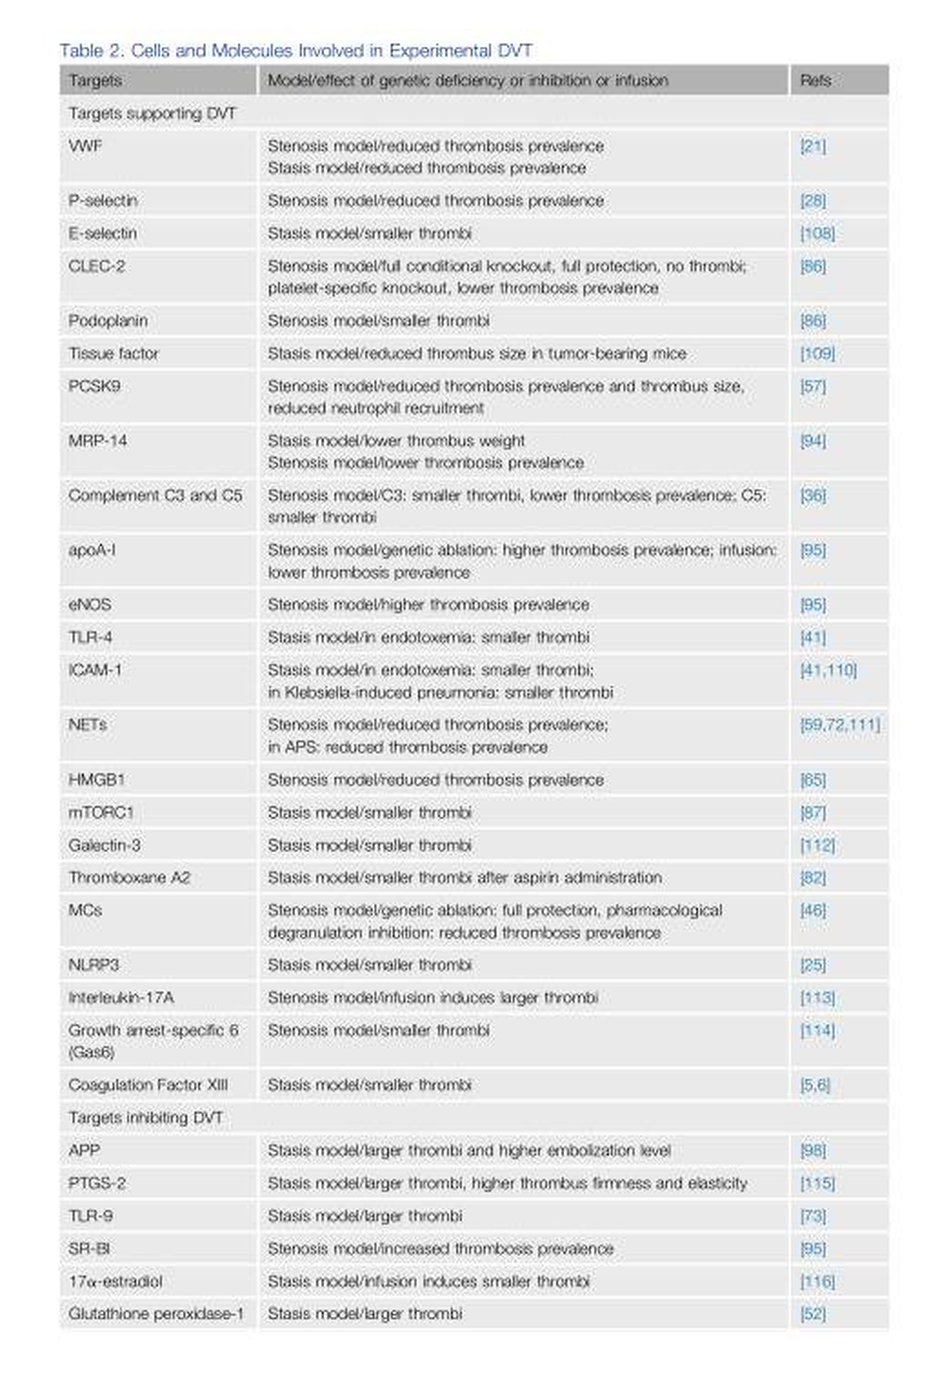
<table><thead><tr><td>Targets</td><td>Model/effect of genetic deficiency or inhibition or infusion</td><td>Refs</td></tr></thead><tbody><tr><td colspan="3">Targets supporting DVT</td></tr><tr><td>VWF</td><td>Stenosis model/reduced thrombosis prevalence Stasis model/reduced thrombosis prevalence</td><td>[21]</td></tr><tr><td>P-selectin</td><td>Stenosis model/reduced thrombosis prevalence</td><td>[28]</td></tr><tr><td>E-selectin</td><td>Stasis model/smaller thrombi</td><td>[108]</td></tr><tr><td>CLEC-2</td><td>Stenosis model/full conditional knockout, full protection, no thrombi; platelet-specific knockout, lower thrombosis prevalence</td><td>[86]</td></tr><tr><td>Podoplanin</td><td>Stenosis model/smaller thrombi</td><td>[86]</td></tr><tr><td>Tissue factor</td><td>Stasis model/reduced thrombus size in tumor-bearing mice</td><td>[109]</td></tr><tr><td>PCSK9</td><td>Stenosis model/reduced thrombosis prevalence and thrombus size, reduced neutrophil recruitment</td><td>[57]</td></tr><tr><td>MRP-14</td><td>Stasis model/lower thrombus weight Stenosis model/lower thrombosis prevalence</td><td>[94]</td></tr><tr><td>Complement C3 and C5</td><td>Stenosis model/C3: smaller thrombi, lower thrombosis prevalence; C5: smaller thrombi</td><td>[36]</td></tr><tr><td>apoA-I</td><td>Stenosis model/genetic ablation: higher thrombosis prevalence; infusion: lower thrombosis prevalence</td><td>[95]</td></tr><tr><td>eNOS</td><td>Stenosis model/higher thrombosis prevalence</td><td>[95]</td></tr><tr><td>TLR-4</td><td>Stasis model/in endotoxemia: smaller thrombi</td><td>[41]</td></tr><tr><td>ICAM-1</td><td>Stasis model/in endotoxemia: smaller thrombi; in Klebsiella-induced pneumonia: smaller thrombi</td><td>[41,110]</td></tr><tr><td>NETs</td><td>Stenosis model/reduced thrombosis prevalence; in APS: reduced thrombosis prevalence</td><td>[59,72,111]</td></tr><tr><td>HMGB1</td><td>Stenosis model/reduced thrombosis prevalence</td><td>[65]</td></tr><tr><td>mTORC1</td><td>Stasis model/smaller thrombi</td><td>[87]</td></tr><tr><td>Galectin-3</td><td>Stasis model/smaller thrombi</td><td>[112]</td></tr><tr><td>Thromboxane A2</td><td>Stasis model/smaller thrombi after aspirin administration</td><td>[82]</td></tr><tr><td>MCs</td><td>Stenosis model/genetic ablation: full protection, pharmacological degranulation inhibition: reduced thrombosis prevalence</td><td>[46]</td></tr><tr><td>NLRP3</td><td>Stasis model/smaller thrombi</td><td>[25]</td></tr><tr><td>Interleukin-17A</td><td>Stenosis model/infusion induces larger thrombi</td><td>[113]</td></tr><tr><td>Growth arrest-specific 6 (Gas6)</td><td>Stenosis model/smaller thrombi</td><td>[114]</td></tr><tr><td>Coagulation Factor XIII</td><td>Stasis model/smaller thrombi</td><td>[5,6]</td></tr><tr><td colspan="3">Targets inhibiting DVT</td></tr><tr><td>APP</td><td>Stasis model/larger thrombi and higher embolization level</td><td>[98]</td></tr><tr><td>PTGS-2</td><td>Stasis model/larger thrombi, higher thrombus firmness and elasticity</td><td>[115]</td></tr><tr><td>TLR-9</td><td>Stasis model/larger thrombi</td><td>[73]</td></tr><tr><td>SR-BI</td><td>Stenosis model/increased thrombosis prevalence</td><td>[95]</td></tr><tr><td>17α-estradiol</td><td>Stasis model/infusion induces smaller thrombi</td><td>[116]</td></tr><tr><td>Glutathione peroxidase-1</td><td>Stasis model/larger thrombi</td><td>[52]</td></tr></tbody></table>